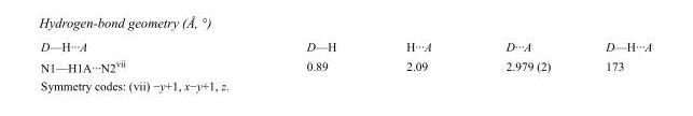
<table><tbody><tr><td>D—H···A</td><td>D—H</td><td>H···A</td><td>D···A</td><td>D—H···A</td></tr><tr><td>N1—H1A···N2<sup>vii</sup></td><td>0.89</td><td>2.09</td><td>2.979 (2)</td><td>173</td></tr></tbody></table>